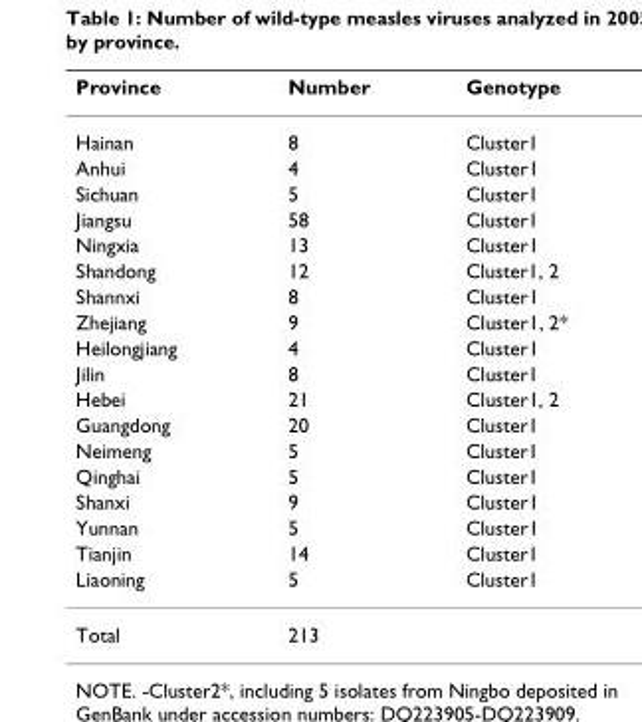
<table><thead><tr><td>Province</td><td>Number</td><td>Genotype</td></tr></thead><tbody><tr><td>Hainan</td><td>8</td><td>Cluster1</td></tr><tr><td>Anhui</td><td>4</td><td>Cluster1</td></tr><tr><td>Sichuan</td><td>5</td><td>Cluster1</td></tr><tr><td>Jiangsu</td><td>58</td><td>Cluster1</td></tr><tr><td>Ningxia</td><td>13</td><td>Cluster1</td></tr><tr><td>Shandong</td><td>12</td><td>Cluster1, 2</td></tr><tr><td>Shannxi</td><td>8</td><td>Cluster1</td></tr><tr><td>Zhejiang</td><td>9</td><td>Cluster1, 2*</td></tr><tr><td>Heilongjiang</td><td>4</td><td>Cluster1</td></tr><tr><td>Jilin</td><td>8</td><td>Cluster1</td></tr><tr><td>Hebei</td><td>21</td><td>Cluster1, 2</td></tr><tr><td>Guangdong</td><td>20</td><td>Cluster1</td></tr><tr><td>Neimeng</td><td>5</td><td>Cluster1</td></tr><tr><td>Qinghai</td><td>5</td><td>Cluster1</td></tr><tr><td>Shanxi</td><td>9</td><td>Cluster1</td></tr><tr><td>Yunnan</td><td>5</td><td>Cluster1</td></tr><tr><td>Tianjin</td><td>14</td><td>Cluster1</td></tr><tr><td>Liaoning</td><td>5</td><td>Cluster1</td></tr><tr><td>Total</td><td>213</td><td></td></tr></tbody></table>